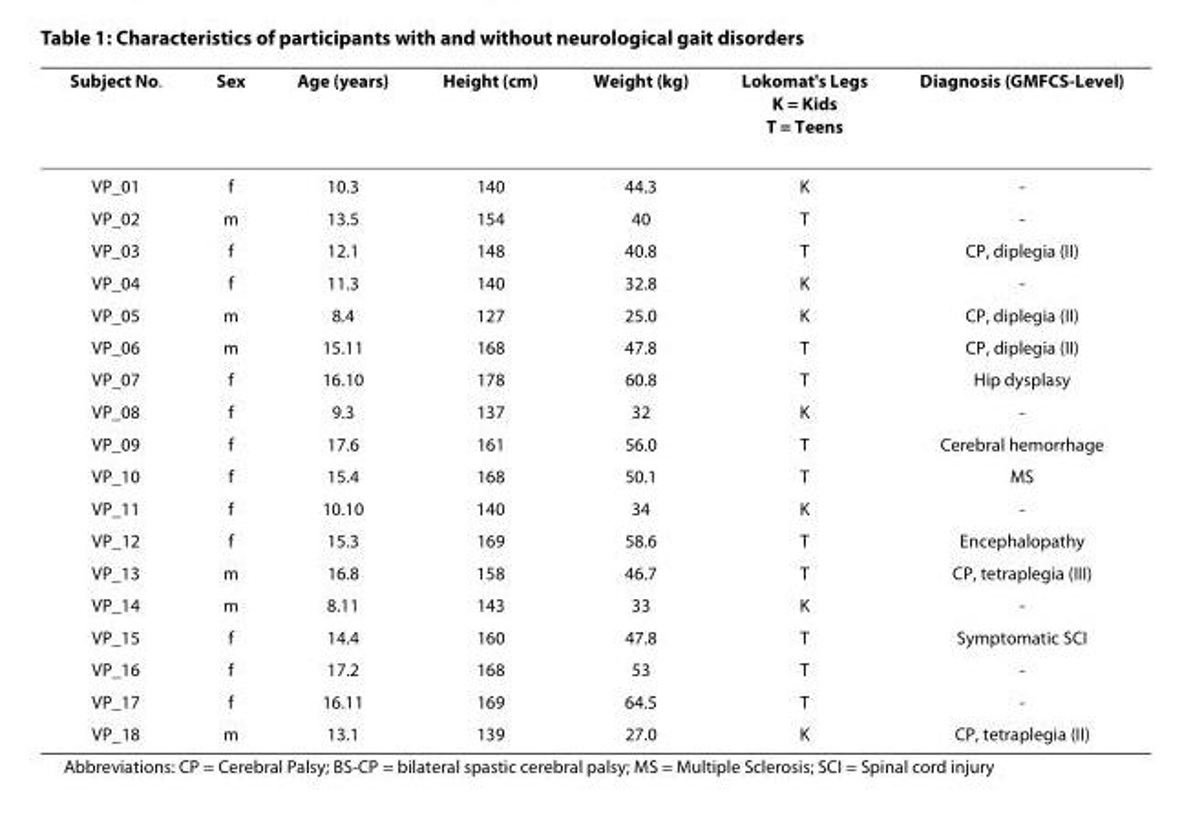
<table><thead><tr><td>Subject No.</td><td>Sex</td><td>Age (years)</td><td>Height (cm)</td><td>Weight (kg)</td><td>Lokomat&#x27;s Legs K = Kids T = Teens</td><td>Diagnosis (GMFCS-Level)</td></tr></thead><tbody><tr><td>VP_01</td><td>f</td><td>10.3</td><td>140</td><td>44.3</td><td>K</td><td>-</td></tr><tr><td>VP_02</td><td>m</td><td>13.5</td><td>154</td><td>40</td><td>T</td><td>-</td></tr><tr><td>VP_03</td><td>f</td><td>12.1</td><td>148</td><td>40.8</td><td>T</td><td>CP, diplegia (II)</td></tr><tr><td>VP_04</td><td>f</td><td>11.3</td><td>140</td><td>32.8</td><td>K</td><td>-</td></tr><tr><td>VP_05</td><td>m</td><td>8.4</td><td>127</td><td>25.0</td><td>K</td><td>CP, diplegia (II)</td></tr><tr><td>VP_06</td><td>m</td><td>15.11</td><td>168</td><td>47.8</td><td>T</td><td>CP, diplegia (II)</td></tr><tr><td>VP_07</td><td>f</td><td>16.10</td><td>178</td><td>60.8</td><td>T</td><td>Hip dysplasy</td></tr><tr><td>VP_08</td><td>f</td><td>9.3</td><td>137</td><td>32</td><td>K</td><td>-</td></tr><tr><td>VP_09</td><td>f</td><td>17.6</td><td>161</td><td>56.0</td><td>T</td><td>Cerebral hemorrhage</td></tr><tr><td>VP_10</td><td>f</td><td>15.4</td><td>168</td><td>50.1</td><td>T</td><td>MS</td></tr><tr><td>VP_11</td><td>f</td><td>10.10</td><td>140</td><td>34</td><td>K</td><td>-</td></tr><tr><td>VP_12</td><td>f</td><td>15.3</td><td>169</td><td>58.6</td><td>T</td><td>Encephalopathy</td></tr><tr><td>VP_13</td><td>m</td><td>16.8</td><td>158</td><td>46.7</td><td>T</td><td>CP, tetraplegia (III)</td></tr><tr><td>VP_14</td><td>m</td><td>8.11</td><td>143</td><td>33</td><td>K</td><td>-</td></tr><tr><td>VP_15</td><td>f</td><td>14.4</td><td>160</td><td>47.8</td><td>T</td><td>Symptomatic SCI</td></tr><tr><td>VP_16</td><td>f</td><td>17.2</td><td>168</td><td>53</td><td>T</td><td>-</td></tr><tr><td>VP_17</td><td>f</td><td>16.11</td><td>169</td><td>64.5</td><td>T</td><td>-</td></tr><tr><td>VP_18</td><td>m</td><td>13.1</td><td>139</td><td>27.0</td><td>K</td><td>CP, tetraplegia (II)</td></tr></tbody></table>